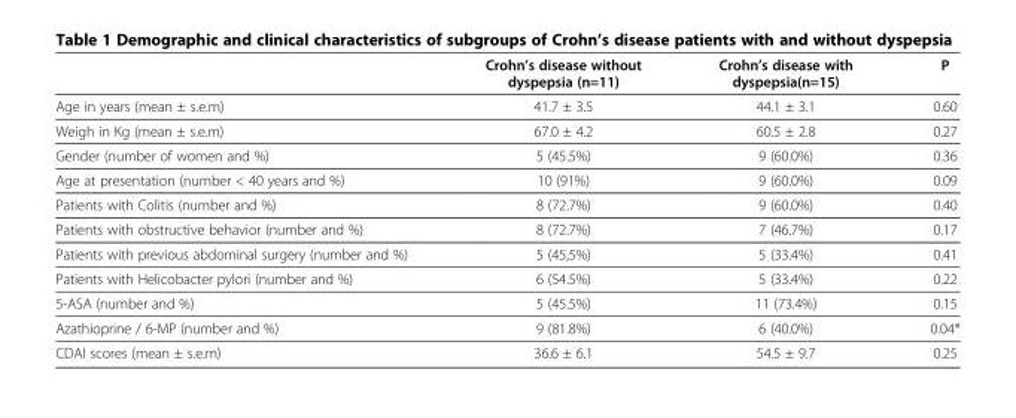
<table><thead><tr><td></td><td>Crohn’s disease without dyspepsia (n=11)</td><td>Crohn’s disease with dyspepsia(n=15)</td><td>P</td></tr></thead><tbody><tr><td>Age in years (mean ± s.e.m)</td><td>41.7 ± 3.5</td><td>44.1 ± 3.1</td><td>0.60</td></tr><tr><td>Weigh in Kg (mean ± s.e.m)</td><td>67.0 ± 4.2</td><td>60.5 ± 2.8</td><td>0.27</td></tr><tr><td>Gender (number of women and %)</td><td>5 (45.5%)</td><td>9 (60.0%)</td><td>0.36</td></tr><tr><td>Age at presentation (number &lt; 40 years and %)</td><td>10 (91%)</td><td>9 (60.0%)</td><td>0.09</td></tr><tr><td>Patients with Colitis (number and %)</td><td>8 (72.7%)</td><td>9 (60.0%)</td><td>0.40</td></tr><tr><td>Patients with obstructive behavior (number and %)</td><td>8 (72.7%)</td><td>7 (46.7%)</td><td>0.17</td></tr><tr><td>Patients with previous abdominal surgery (number and %)</td><td>5 (45,5%)</td><td>5 (33.4%)</td><td>0.41</td></tr><tr><td>Patients with Helicobacter pylori (number and %)</td><td>6 (54.5%)</td><td>5 (33.4%)</td><td>0.22</td></tr><tr><td>5-ASA (number and %)</td><td>5 (45.5%)</td><td>11 (73.4%)</td><td>0.15</td></tr><tr><td>Azathioprine / 6-MP (number and %)</td><td>9 (81.8%)</td><td>6 (40.0%)</td><td>0.04*</td></tr><tr><td>CDAI scores (mean ± s.e.m)</td><td>36.6 ± 6.1</td><td>54.5 ± 9.7</td><td>0.25</td></tr></tbody></table>